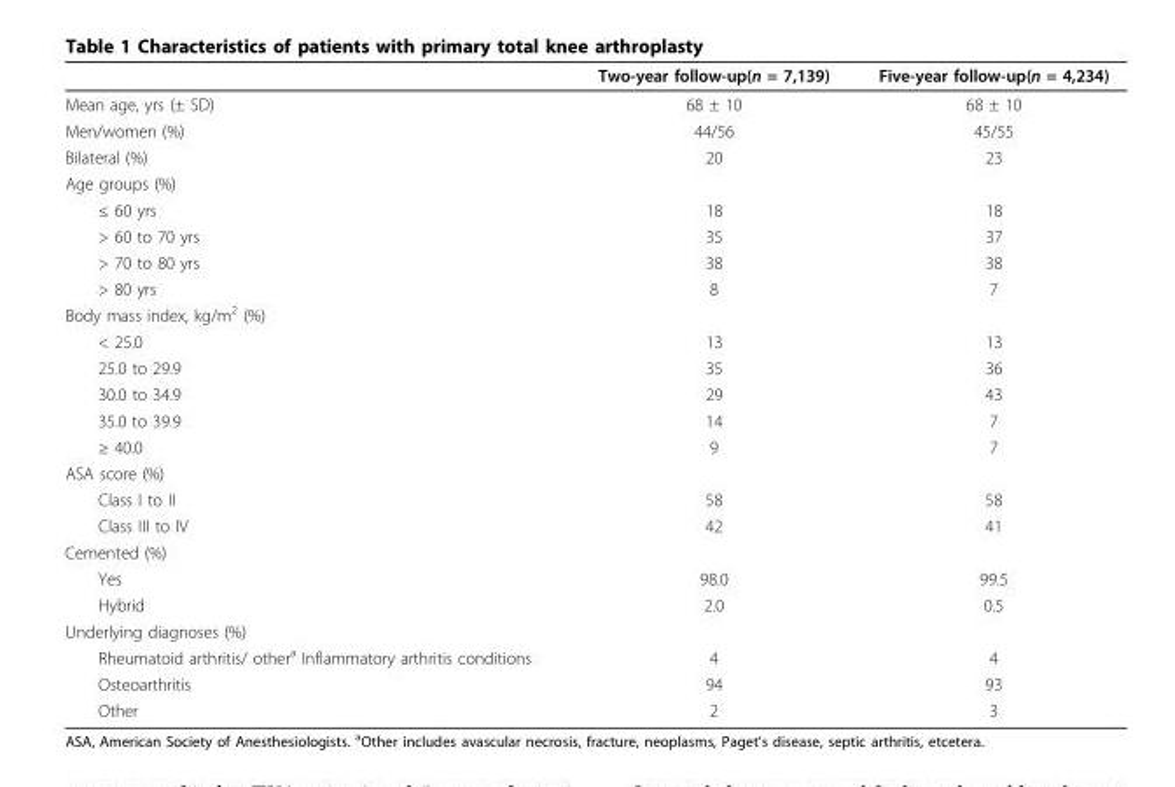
<table><thead><tr><td></td><td>Two-year follow-up(n = 7,139)</td><td>Five-year follow-up(n = 4,234)</td></tr></thead><tbody><tr><td>Mean age, yrs (± SD)</td><td>68 ± 10</td><td>68 ± 10</td></tr><tr><td>Men/women (%)</td><td>44/56</td><td>45/55</td></tr><tr><td>Bilateral (%)</td><td>20</td><td>23</td></tr><tr><td colspan="3">Age groups (%)</td></tr><tr><td>≤ 60 yrs</td><td>18</td><td>18</td></tr><tr><td>&gt; 60 to 70 yrs</td><td>35</td><td>37</td></tr><tr><td>&gt; 70 to 80 yrs</td><td>38</td><td>38</td></tr><tr><td>&gt; 80 yrs</td><td>8</td><td>7</td></tr><tr><td colspan="3">Body mass index, kg/m<sup>2</sup> (%)</td></tr><tr><td>&lt; 25.0</td><td>13</td><td>13</td></tr><tr><td>25.0 to 29.9</td><td>35</td><td>36</td></tr><tr><td>30.0 to 34.9</td><td>29</td><td>43</td></tr><tr><td>35.0 to 39.9</td><td>14</td><td>7</td></tr><tr><td>≥ 40.0</td><td>9</td><td>7</td></tr><tr><td colspan="3">ASA score (%)</td></tr><tr><td>Class I to II</td><td>58</td><td>58</td></tr><tr><td>Class III to IV</td><td>42</td><td>41</td></tr><tr><td colspan="3">Cemented (%)</td></tr><tr><td>Yes</td><td>98.0</td><td>99.5</td></tr><tr><td>Hybrid</td><td>2.0</td><td>0.5</td></tr><tr><td colspan="3">Underlying diagnoses (%)</td></tr><tr><td>Rheumatoid arthritis/ other<sup>a</sup> Inflammatory arthritis conditions</td><td>4</td><td>4</td></tr><tr><td>Osteoarthritis</td><td>94</td><td>93</td></tr><tr><td>Other</td><td>2</td><td>3</td></tr></tbody></table>